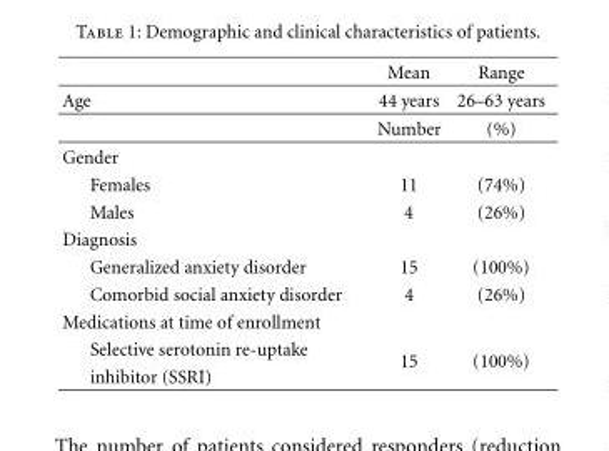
<table><thead><tr><td></td><td>Mean</td><td>Range</td></tr></thead><tbody><tr><td rowspan="2">Age</td><td>44 years</td><td>26–63 years</td></tr><tr><td>Number</td><td>(%)</td></tr><tr><td colspan="3">Gender</td></tr><tr><td>Females</td><td>11</td><td>(74%)</td></tr><tr><td>Males</td><td>4</td><td>(26%)</td></tr><tr><td colspan="3">Diagnosis</td></tr><tr><td>Generalized anxiety disorder</td><td>15</td><td>(100%)</td></tr><tr><td>Comorbid social anxiety disorder</td><td>4</td><td>(26%)</td></tr><tr><td colspan="3">Medications at time of enrollment</td></tr><tr><td>Selective serotonin re-uptake inhibitor (SSRI)</td><td>15</td><td>(100%)</td></tr></tbody></table>